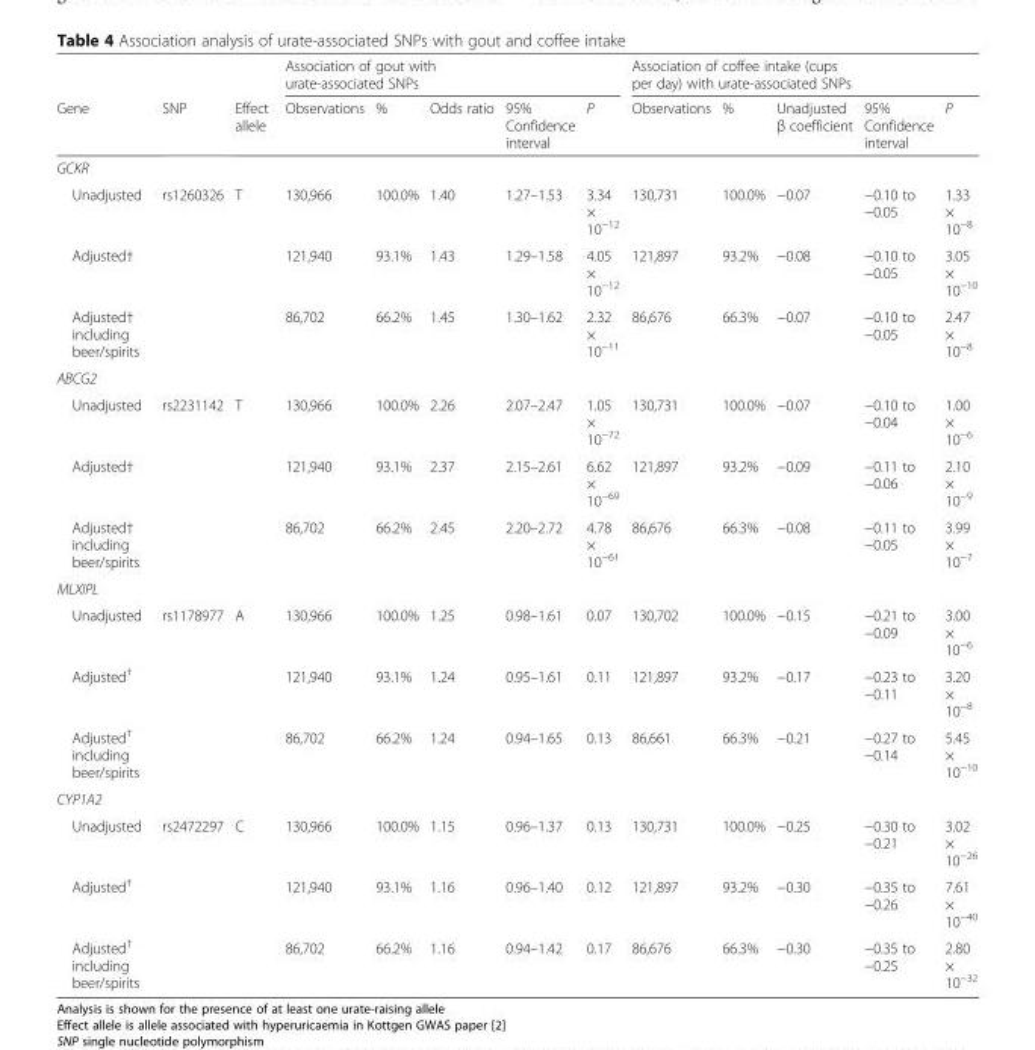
<table><thead><tr><td rowspan="2">Gene</td><td rowspan="2">SNP</td><td rowspan="2">Effect allele</td><td colspan="5">Association of gout with urate-associated SNPs</td><td colspan="5">Association of coffee intake (cups per day) with urate-associated SNPs</td></tr><tr><td>Observations</td><td>%</td><td>Odds ratio</td><td>95% Confidence interval</td><td>P</td><td>Observations</td><td>%</td><td>Unadjusted β coefficient</td><td>95% Confidence interval</td><td>P</td></tr></thead><tbody><tr><td colspan="13">GCKR</td></tr><tr><td>Unadjusted</td><td rowspan="3">rs1260326</td><td rowspan="3">T</td><td>130,966</td><td>100.0%</td><td>1.40</td><td>1.27–1.53</td><td>3.34 × 10<sup>−12</sup></td><td>130,731</td><td>100.0%</td><td>−0.07</td><td>−0.10 to −0.05</td><td>1.33 × 10<sup>−8</sup></td></tr><tr><td>Adjusted†</td><td>121,940</td><td>93.1%</td><td>1.43</td><td>1.29–1.58</td><td>4.05 × 10<sup>−12</sup></td><td>121,897</td><td>93.2%</td><td>−0.08</td><td>−0.10 to −0.05</td><td>3.05 × 10<sup>−10</sup></td></tr><tr><td>Adjusted† including beer/spirits</td><td>86,702</td><td>66.2%</td><td>1.45</td><td>1.30–1.62</td><td>2.32 × 10<sup>−11</sup></td><td>86,676</td><td>66.3%</td><td>−0.07</td><td>−0.10 to −0.05</td><td>2.47 × 10<sup>−8</sup></td></tr><tr><td colspan="13">ABCG2</td></tr><tr><td>Unadjusted</td><td rowspan="3">rs2231142</td><td rowspan="3">T</td><td>130,966</td><td>100.0%</td><td>2.26</td><td>2.07–2.47</td><td>1.05 × 10<sup>−72</sup></td><td>130,731</td><td>100.0%</td><td>−0.07</td><td>−0.10 to −0.04</td><td>1.00 × 10<sup>−6</sup></td></tr><tr><td>Adjusted†</td><td>121,940</td><td>93.1%</td><td>2.37</td><td>2.15–2.61</td><td>6.62 × 10<sup>−69</sup></td><td>121,897</td><td>93.2%</td><td>−0.09</td><td>−0.11 to −0.06</td><td>2.10 × 10<sup>−9</sup></td></tr><tr><td>Adjusted† including beer/spirits</td><td>86,702</td><td>66.2%</td><td>2.45</td><td>2.20–2.72</td><td>4.78 × 10<sup>−61</sup></td><td>86,676</td><td>66.3%</td><td>−0.08</td><td>−0.11 to −0.05</td><td>3.99 × 10<sup>−7</sup></td></tr><tr><td colspan="13">MLXIPL</td></tr><tr><td>Unadjusted</td><td rowspan="3">rs1178977</td><td rowspan="3">A</td><td>130,966</td><td>100.0%</td><td>1.25</td><td>0.98–1.61</td><td>0.07</td><td>130,702</td><td>100.0%</td><td>−0.15</td><td>−0.21 to −0.09</td><td>3.00 × 10<sup>−6</sup></td></tr><tr><td>Adjusted<sup>†</sup></td><td>121,940</td><td>93.1%</td><td>1.24</td><td>0.95–1.61</td><td>0.11</td><td>121,897</td><td>93.2%</td><td>−0.17</td><td>−0.23 to −0.11</td><td>3.20 × 10<sup>−8</sup></td></tr><tr><td>Adjusted<sup>†</sup> including beer/spirits</td><td>86,702</td><td>66.2%</td><td>1.24</td><td>0.94–1.65</td><td>0.13</td><td>86,661</td><td>66.3%</td><td>−0.21</td><td>−0.27 to −0.14</td><td>5.45 × 10<sup>−10</sup></td></tr><tr><td colspan="13">CYP1A2</td></tr><tr><td>Unadjusted</td><td rowspan="3">rs2472297</td><td rowspan="3">C</td><td>130,966</td><td>100.0%</td><td>1.15</td><td>0.96–1.37</td><td>0.13</td><td>130,731</td><td>100.0%</td><td>−0.25</td><td>−0.30 to −0.21</td><td>3.02 × 10<sup>−26</sup></td></tr><tr><td>Adjusted<sup>†</sup></td><td>121,940</td><td>93.1%</td><td>1.16</td><td>0.96–1.40</td><td>0.12</td><td>121,897</td><td>93.2%</td><td>−0.30</td><td>−0.35 to −0.26</td><td>7.61 × 10<sup>−40</sup></td></tr><tr><td>Adjusted<sup>†</sup> including beer/spirits</td><td>86,702</td><td>66.2%</td><td>1.16</td><td>0.94–1.42</td><td>0.17</td><td>86,676</td><td>66.3%</td><td>−0.30</td><td>−0.35 to −0.25</td><td>2.80 × 10<sup>−32</sup></td></tr></tbody></table>